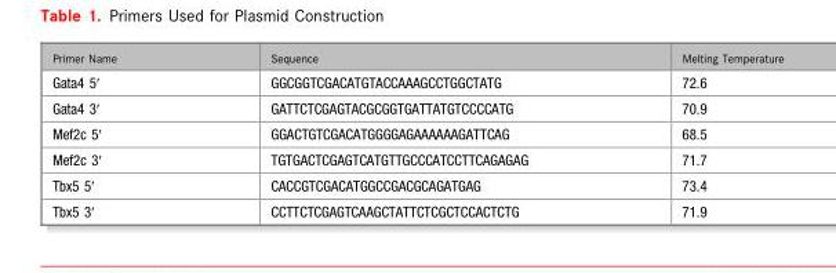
<table><thead><tr><td>Primer Name</td><td>Sequence</td><td>Melting Temperature</td></tr></thead><tbody><tr><td>Gata4 5′</td><td>GGCGGTCGACATGTACCAAAGCCTGGCTATG</td><td>72.6</td></tr><tr><td>Gata4 3′</td><td>GATTCTCGAGTACGCGGTGATTATGTCCCCATG</td><td>70.9</td></tr><tr><td>Mef2c 5′</td><td>GGACTGTCGACATGGGGAGAAAAAAGATTCAG</td><td>68.5</td></tr><tr><td>Mef2c 3′</td><td>TGTGACTCGAGTCATGTTGCCCATCCTTCAGAGAG</td><td>71.7</td></tr><tr><td>Tbx5 5′</td><td>CACCGTCGACATGGCCGACGCAGATGAG</td><td>73.4</td></tr><tr><td>Tbx5 3′</td><td>CCTTCTCGAGTCAAGCTATTCTCGCTCCACTCTG</td><td>71.9</td></tr></tbody></table>